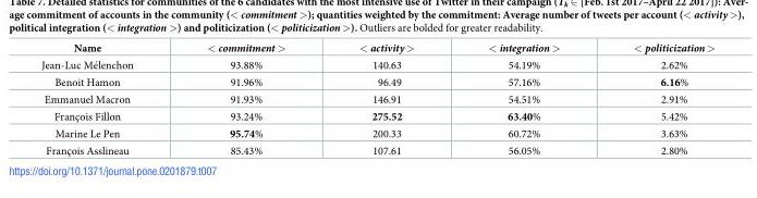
<table><thead><tr><td>Name</td><td>&lt; commitment &gt;</td><td>&lt; activity &gt;</td><td>&lt; integration &gt;</td><td>&lt; politicization &gt;</td></tr></thead><tbody><tr><td>Jean-Luc Me´lenchon</td><td>93.88%</td><td>140.63</td><td>54.19%</td><td>2.62%</td></tr><tr><td>Benoit Hamon</td><td>91.96%</td><td>96.49</td><td>57.16%</td><td>6.16%</td></tr><tr><td>Emmanuel Macron</td><td>91.93%</td><td>146.91</td><td>54.51%</td><td>2.91%</td></tr><tr><td>Franc¸ois Fillon</td><td>93.24%</td><td>275.52</td><td>63.40%</td><td>5.42%</td></tr><tr><td>Marine Le Pen</td><td>95.74%</td><td>200.33</td><td>60.72%</td><td>3.63%</td></tr><tr><td>Franc¸ois Asslineau</td><td>85.43%</td><td>107.61</td><td>56.05%</td><td>2.80%</td></tr></tbody></table>